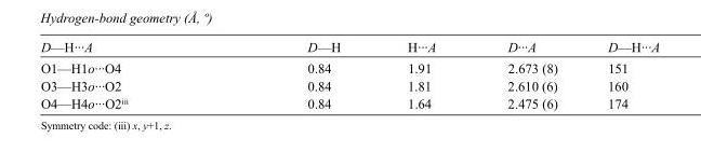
<table><tbody><tr><td>D—H···A</td><td>D—H</td><td>H···A</td><td>D···A</td><td>D—H···A</td></tr><tr><td>O1—H1o···O4</td><td>0.84</td><td>1.91</td><td>2.673 (8)</td><td>151</td></tr><tr><td>O3—H3o···O2</td><td>0.84</td><td>1.81</td><td>2.610 (6)</td><td>160</td></tr><tr><td>O4—H4o···O2<sup>iii</sup></td><td>0.84</td><td>1.64</td><td>2.475 (6)</td><td>174</td></tr></tbody></table>